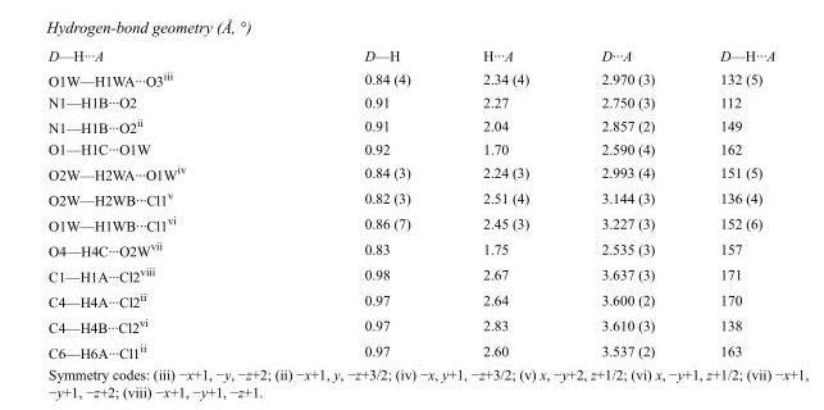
<table><tbody><tr><td>D—H···A</td><td>D—H</td><td>H···A</td><td>D···A</td><td>D—H···A</td></tr><tr><td>O1W—H1WA···O3<sup>iii</sup></td><td>0.84 (4)</td><td>2.34 (4)</td><td>2.970 (3)</td><td>132 (5)</td></tr><tr><td>N1—H1B···O2</td><td>0.91</td><td>2.27</td><td>2.750 (3)</td><td>112</td></tr><tr><td>N1—H1B···O2<sup>ii</sup></td><td>0.91</td><td>2.04</td><td>2.857 (2)</td><td>149</td></tr><tr><td>O1—H1C···O1W</td><td>0.92</td><td>1.70</td><td>2.590 (4)</td><td>162</td></tr><tr><td>O2W—H2WA···O1W<sup>iv</sup></td><td>0.84 (3)</td><td>2.24 (3)</td><td>2.993 (4)</td><td>151 (5)</td></tr><tr><td>O2W—H2WB···Cl1<sup>v</sup></td><td>0.82 (3)</td><td>2.51 (4)</td><td>3.144 (3)</td><td>136 (4)</td></tr><tr><td>O1W—H1WB···Cl1<sup>vi</sup></td><td>0.86 (7)</td><td>2.45 (3)</td><td>3.227 (3)</td><td>152 (6)</td></tr><tr><td>O4—H4C···O2W<sup>vii</sup></td><td>0.83</td><td>1.75</td><td>2.535 (3)</td><td>157</td></tr><tr><td>C1—H1A···Cl2<sup>viii</sup></td><td>0.98</td><td>2.67</td><td>3.637 (3)</td><td>171</td></tr><tr><td>C4—H4A···Cl2<sup>ii</sup></td><td>0.97</td><td>2.64</td><td>3.600 (2)</td><td>170</td></tr><tr><td>C4—H4B···Cl2<sup>vi</sup></td><td>0.97</td><td>2.83</td><td>3.610 (3)</td><td>138</td></tr><tr><td>C6—H6A···Cl1<sup>ii</sup></td><td>0.97</td><td>2.60</td><td>3.537 (2)</td><td>163</td></tr></tbody></table>